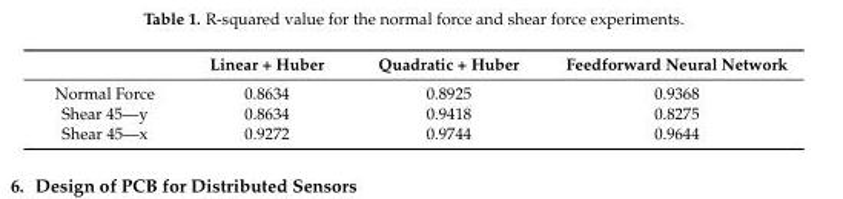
<table><thead><tr><td></td><td>Linear + Huber</td><td>Quadratic + Huber</td><td>Feedforward Neural Network</td></tr></thead><tbody><tr><td>Normal Force</td><td>0.8634</td><td>0.8925</td><td>0.9368</td></tr><tr><td>Shear 45—y</td><td>0.8634</td><td>0.9418</td><td>0.8275</td></tr><tr><td>Shear 45—x</td><td>0.9272</td><td>0.9744</td><td>0.9644</td></tr></tbody></table>